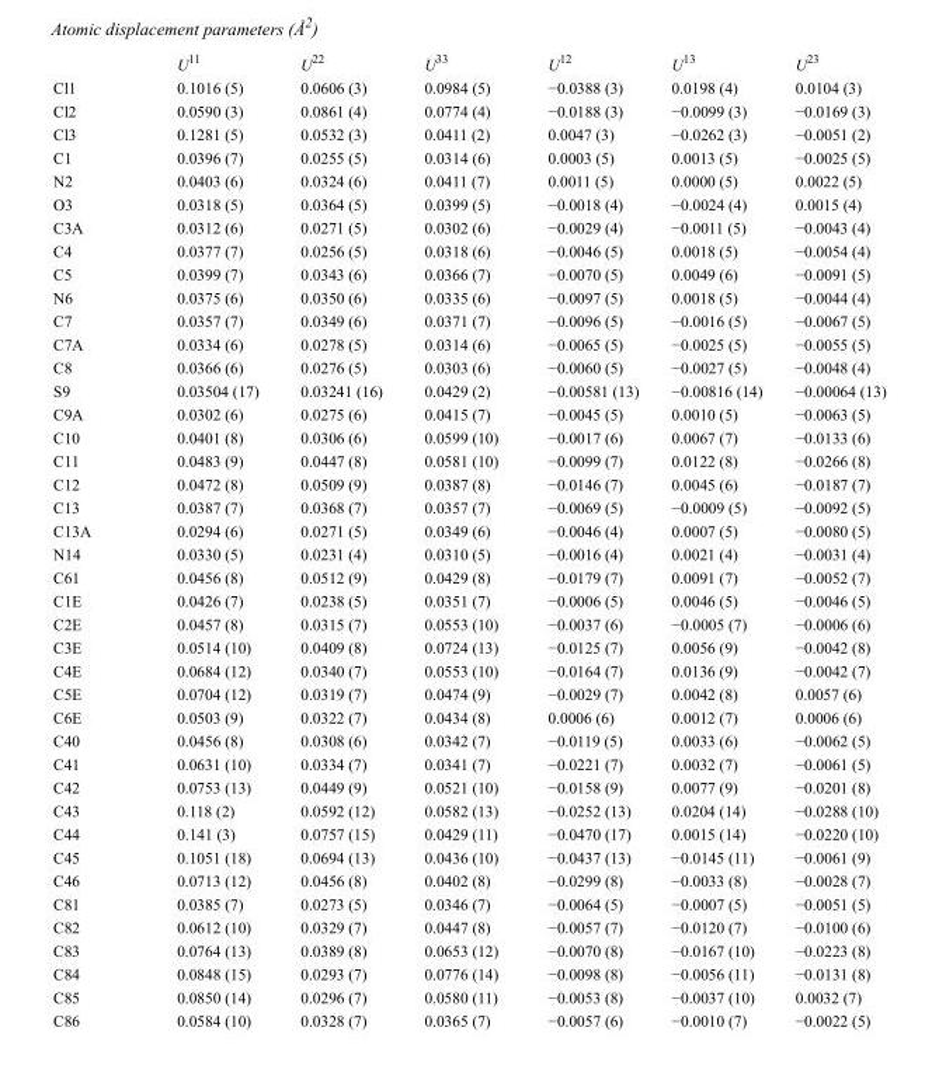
<table><thead><tr><td></td><td>U<sup>11</sup></td><td>U<sup>22</sup></td><td>U<sup>33</sup></td><td>U<sup>12</sup></td><td>U<sup>13</sup></td><td>U<sup>23</sup></td></tr></thead><tbody><tr><td>Cl1</td><td>0.1016 (5)</td><td>0.0606 (3)</td><td>0.0984 (5)</td><td>−0.0388 (3)</td><td>0.0198 (4)</td><td>0.0104 (3)</td></tr><tr><td>Cl2</td><td>0.0590 (3)</td><td>0.0861 (4)</td><td>0.0774 (4)</td><td>−0.0188 (3)</td><td>−0.0099 (3)</td><td>−0.0169 (3)</td></tr><tr><td>Cl3</td><td>0.1281 (5)</td><td>0.0532 (3)</td><td>0.0411 (2)</td><td>0.0047 (3)</td><td>−0.0262 (3)</td><td>−0.0051 (2)</td></tr><tr><td>C1</td><td>0.0396 (7)</td><td>0.0255 (5)</td><td>0.0314 (6)</td><td>0.0003 (5)</td><td>0.0013 (5)</td><td>−0.0025 (5)</td></tr><tr><td>N2</td><td>0.0403 (6)</td><td>0.0324 (6)</td><td>0.0411 (7)</td><td>0.0011 (5)</td><td>0.0000 (5)</td><td>0.0022 (5)</td></tr><tr><td>O3</td><td>0.0318 (5)</td><td>0.0364 (5)</td><td>0.0399 (5)</td><td>−0.0018 (4)</td><td>−0.0024 (4)</td><td>0.0015 (4)</td></tr><tr><td>C3A</td><td>0.0312 (6)</td><td>0.0271 (5)</td><td>0.0302 (6)</td><td>−0.0029 (4)</td><td>−0.0011 (5)</td><td>−0.0043 (4)</td></tr><tr><td>C4</td><td>0.0377 (7)</td><td>0.0256 (5)</td><td>0.0318 (6)</td><td>−0.0046 (5)</td><td>0.0018 (5)</td><td>−0.0054 (4)</td></tr><tr><td>C5</td><td>0.0399 (7)</td><td>0.0343 (6)</td><td>0.0366 (7)</td><td>−0.0070 (5)</td><td>0.0049 (6)</td><td>−0.0091 (5)</td></tr><tr><td>N6</td><td>0.0375 (6)</td><td>0.0350 (6)</td><td>0.0335 (6)</td><td>−0.0097 (5)</td><td>0.0018 (5)</td><td>−0.0044 (4)</td></tr><tr><td>C7</td><td>0.0357 (7)</td><td>0.0349 (6)</td><td>0.0371 (7)</td><td>−0.0096 (5)</td><td>−0.0016 (5)</td><td>−0.0067 (5)</td></tr><tr><td>C7A</td><td>0.0334 (6)</td><td>0.0278 (5)</td><td>0.0314 (6)</td><td>−0.0065 (5)</td><td>−0.0025 (5)</td><td>−0.0055 (5)</td></tr><tr><td>C8</td><td>0.0366 (6)</td><td>0.0276 (5)</td><td>0.0303 (6)</td><td>−0.0060 (5)</td><td>−0.0027 (5)</td><td>−0.0048 (4)</td></tr><tr><td>S9</td><td>0.03504 (17)</td><td>0.03241 (16)</td><td>0.0429 (2)</td><td>−0.00581 (13)</td><td>−0.00816 (14)</td><td>−0.00064 (13)</td></tr><tr><td>C9A</td><td>0.0302 (6)</td><td>0.0275 (6)</td><td>0.0415 (7)</td><td>−0.0045 (5)</td><td>0.0010 (5)</td><td>−0.0063 (5)</td></tr><tr><td>C10</td><td>0.0401 (8)</td><td>0.0306 (6)</td><td>0.0599 (10)</td><td>−0.0017 (6)</td><td>0.0067 (7)</td><td>−0.0133 (6)</td></tr><tr><td>C11</td><td>0.0483 (9)</td><td>0.0447 (8)</td><td>0.0581 (10)</td><td>−0.0099 (7)</td><td>0.0122 (8)</td><td>−0.0266 (8)</td></tr><tr><td>C12</td><td>0.0472 (8)</td><td>0.0509 (9)</td><td>0.0387 (8)</td><td>−0.0146 (7)</td><td>0.0045 (6)</td><td>−0.0187 (7)</td></tr><tr><td>C13</td><td>0.0387 (7)</td><td>0.0368 (7)</td><td>0.0357 (7)</td><td>−0.0069 (5)</td><td>−0.0009 (5)</td><td>−0.0092 (5)</td></tr><tr><td>C13A</td><td>0.0294 (6)</td><td>0.0271 (5)</td><td>0.0349 (6)</td><td>−0.0046 (4)</td><td>0.0007 (5)</td><td>−0.0080 (5)</td></tr><tr><td>N14</td><td>0.0330 (5)</td><td>0.0231 (4)</td><td>0.0310 (5)</td><td>−0.0016 (4)</td><td>0.0021 (4)</td><td>−0.0031 (4)</td></tr><tr><td>C61</td><td>0.0456 (8)</td><td>0.0512 (9)</td><td>0.0429 (8)</td><td>−0.0179 (7)</td><td>0.0091 (7)</td><td>−0.0052 (7)</td></tr><tr><td>C1E</td><td>0.0426 (7)</td><td>0.0238 (5)</td><td>0.0351 (7)</td><td>−0.0006 (5)</td><td>0.0046 (5)</td><td>−0.0046 (5)</td></tr><tr><td>C2E</td><td>0.0457 (8)</td><td>0.0315 (7)</td><td>0.0553 (10)</td><td>−0.0037 (6)</td><td>−0.0005 (7)</td><td>−0.0006 (6)</td></tr><tr><td>C3E</td><td>0.0514 (10)</td><td>0.0409 (8)</td><td>0.0724 (13)</td><td>−0.0125 (7)</td><td>0.0056 (9)</td><td>−0.0042 (8)</td></tr><tr><td>C4E</td><td>0.0684 (12)</td><td>0.0340 (7)</td><td>0.0553 (10)</td><td>−0.0164 (7)</td><td>0.0136 (9)</td><td>−0.0042 (7)</td></tr><tr><td>C5E</td><td>0.0704 (12)</td><td>0.0319 (7)</td><td>0.0474 (9)</td><td>−0.0029 (7)</td><td>0.0042 (8)</td><td>0.0057 (6)</td></tr><tr><td>C6E</td><td>0.0503 (9)</td><td>0.0322 (7)</td><td>0.0434 (8)</td><td>0.0006 (6)</td><td>0.0012 (7)</td><td>0.0006 (6)</td></tr><tr><td>C40</td><td>0.0456 (8)</td><td>0.0308 (6)</td><td>0.0342 (7)</td><td>−0.0119 (5)</td><td>0.0033 (6)</td><td>−0.0062 (5)</td></tr><tr><td>C41</td><td>0.0631 (10)</td><td>0.0334 (7)</td><td>0.0341 (7)</td><td>−0.0221 (7)</td><td>0.0032 (7)</td><td>−0.0061 (5)</td></tr><tr><td>C42</td><td>0.0753 (13)</td><td>0.0449 (9)</td><td>0.0521 (10)</td><td>−0.0158 (9)</td><td>0.0077 (9)</td><td>−0.0201 (8)</td></tr><tr><td>C43</td><td>0.118 (2)</td><td>0.0592 (12)</td><td>0.0582 (13)</td><td>−0.0252 (13)</td><td>0.0204 (14)</td><td>−0.0288 (10)</td></tr><tr><td>C44</td><td>0.141 (3)</td><td>0.0757 (15)</td><td>0.0429 (11)</td><td>−0.0470 (17)</td><td>0.0015 (14)</td><td>−0.0220 (10)</td></tr><tr><td>C45</td><td>0.1051 (18)</td><td>0.0694 (13)</td><td>0.0436 (10)</td><td>−0.0437 (13)</td><td>−0.0145 (11)</td><td>−0.0061 (9)</td></tr><tr><td>C46</td><td>0.0713 (12)</td><td>0.0456 (8)</td><td>0.0402 (8)</td><td>−0.0299 (8)</td><td>−0.0033 (8)</td><td>−0.0028 (7)</td></tr><tr><td>C81</td><td>0.0385 (7)</td><td>0.0273 (5)</td><td>0.0346 (7)</td><td>−0.0064 (5)</td><td>−0.0007 (5)</td><td>−0.0051 (5)</td></tr><tr><td>C82</td><td>0.0612 (10)</td><td>0.0329 (7)</td><td>0.0447 (8)</td><td>−0.0057 (7)</td><td>−0.0120 (7)</td><td>−0.0100 (6)</td></tr><tr><td>C83</td><td>0.0764 (13)</td><td>0.0389 (8)</td><td>0.0653 (12)</td><td>−0.0070 (8)</td><td>−0.0167 (10)</td><td>−0.0223 (8)</td></tr><tr><td>C84</td><td>0.0848 (15)</td><td>0.0293 (7)</td><td>0.0776 (14)</td><td>−0.0098 (8)</td><td>−0.0056 (11)</td><td>−0.0131 (8)</td></tr><tr><td>C85</td><td>0.0850 (14)</td><td>0.0296 (7)</td><td>0.0580 (11)</td><td>−0.0053 (8)</td><td>−0.0037 (10)</td><td>0.0032 (7)</td></tr><tr><td>C86</td><td>0.0584 (10)</td><td>0.0328 (7)</td><td>0.0365 (7)</td><td>−0.0057 (6)</td><td>−0.0010 (7)</td><td>−0.0022 (5)</td></tr></tbody></table>